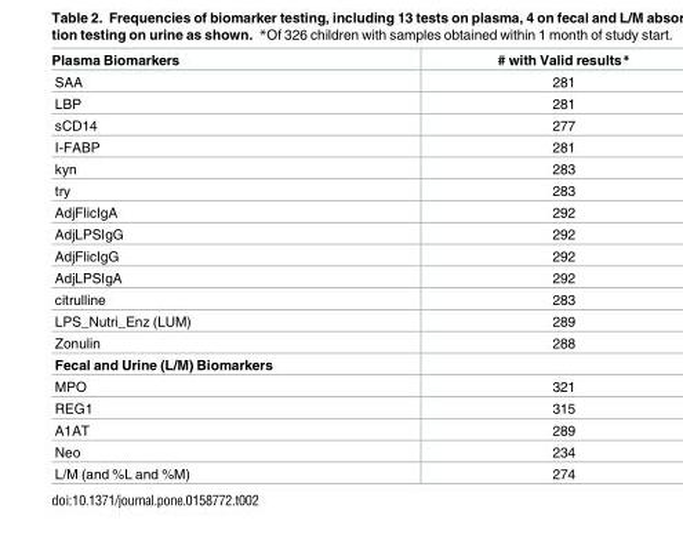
<table><tbody><tr><td>Plasma Biomarkers</td><td># with Valid results*</td></tr><tr><td>SAA</td><td>281</td></tr><tr><td>LBP</td><td>281</td></tr><tr><td>sCD14</td><td>277</td></tr><tr><td>I-FABP</td><td>281</td></tr><tr><td>kyn</td><td>283</td></tr><tr><td>try</td><td>283</td></tr><tr><td>AdjFlicIgA</td><td>292</td></tr><tr><td>AdjLPSIgG</td><td>292</td></tr><tr><td>AdjFlicIgG</td><td>292</td></tr><tr><td>AdjLPSIgA</td><td>292</td></tr><tr><td>citrulline</td><td>283</td></tr><tr><td>LPS_Nutri_Enz (LUM)</td><td>289</td></tr><tr><td>Zonulin</td><td>288</td></tr><tr><td colspan="2">Fecal and Urine (L/M) Biomarkers</td></tr><tr><td>MPO</td><td>321</td></tr><tr><td>REG1</td><td>315</td></tr><tr><td>A1AT</td><td>289</td></tr><tr><td>Neo</td><td>234</td></tr><tr><td>L/M (and %L and %M)</td><td>274</td></tr></tbody></table>